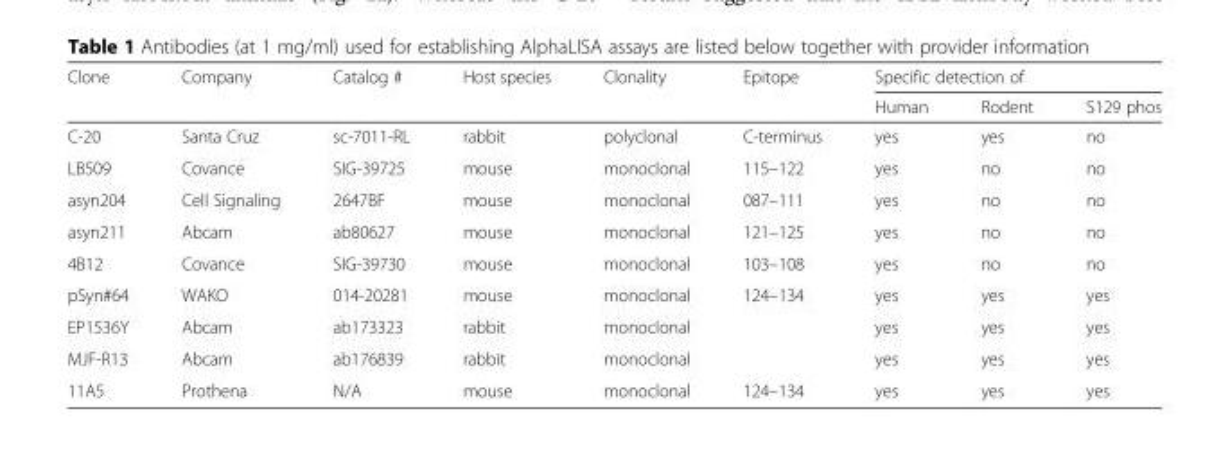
<table><thead><tr><td rowspan="2">Clone</td><td rowspan="2">Company</td><td rowspan="2">Catalog #</td><td rowspan="2">Host species</td><td rowspan="2">Clonality</td><td rowspan="2">Epitope</td><td colspan="3">Specific detection of</td></tr><tr><td>Human</td><td>Rodent</td><td>S129 phos</td></tr></thead><tbody><tr><td>C-20</td><td>Santa Cruz</td><td>sc-7011-RL</td><td>rabbit</td><td>polyclonal</td><td>C-terminus</td><td>yes</td><td>yes</td><td>no</td></tr><tr><td>LB509</td><td>Covance</td><td>SIG-39725</td><td>mouse</td><td>monoclonal</td><td>115–122</td><td>yes</td><td>no</td><td>no</td></tr><tr><td>asyn204</td><td>Cell Signaling</td><td>2647BF</td><td>mouse</td><td>monoclonal</td><td>087–111</td><td>yes</td><td>no</td><td>no</td></tr><tr><td>asyn211</td><td>Abcam</td><td>ab80627</td><td>mouse</td><td>monoclonal</td><td>121–125</td><td>yes</td><td>no</td><td>no</td></tr><tr><td>4B12</td><td>Covance</td><td>SIG-39730</td><td>mouse</td><td>monoclonal</td><td>103–108</td><td>yes</td><td>no</td><td>no</td></tr><tr><td>pSyn#64</td><td>WAKO</td><td>014-20281</td><td>mouse</td><td>monoclonal</td><td>124–134</td><td>yes</td><td>yes</td><td>yes</td></tr><tr><td>EP1536Y</td><td>Abcam</td><td>ab173323</td><td>rabbit</td><td>monoclonal</td><td></td><td>yes</td><td>yes</td><td>yes</td></tr><tr><td>MJF-R13</td><td>Abcam</td><td>ab176839</td><td>rabbit</td><td>monoclonal</td><td></td><td>yes</td><td>yes</td><td>yes</td></tr><tr><td>11A5</td><td>Prothena</td><td>N/A</td><td>mouse</td><td>monoclonal</td><td>124–134</td><td>yes</td><td>yes</td><td>yes</td></tr></tbody></table>